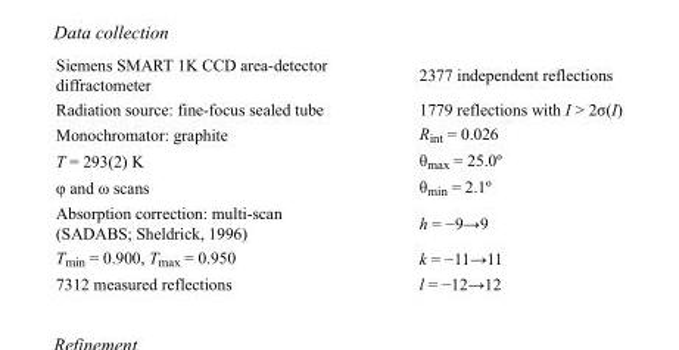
<table><tbody><tr><td>Siemens SMART 1K CCD area-detector diffractometer</td><td>2377 independent reflections</td></tr><tr><td>Radiation source: fine-focus sealed tube</td><td>1779 reflections with I &gt; 2σ(I)</td></tr><tr><td>Monochromator: graphite</td><td>R<sub>int</sub> = 0.026</td></tr><tr><td>T = 293(2) K</td><td>θ<sub>max</sub> = 25.0º</td></tr><tr><td>φ and ω scans</td><td>θ<sub>min</sub> = 2.1º</td></tr><tr><td>Absorption correction: multi-scan (SADABS; Sheldrick, 1996)</td><td>h = −9→9</td></tr><tr><td>T<sub>min</sub> = 0.900, T<sub>max</sub> = 0.950</td><td>k = −11→11</td></tr><tr><td>7312 measured reflections</td><td>l = −12→12</td></tr></tbody></table>